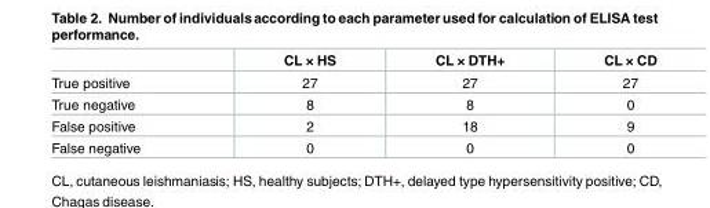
<table><thead><tr><td></td><td>CL × HS</td><td>CL × DTH+</td><td>CL × CD</td></tr></thead><tbody><tr><td>True positive</td><td>27</td><td>27</td><td>27</td></tr><tr><td>True negative</td><td>8</td><td>8</td><td>0</td></tr><tr><td>False positive</td><td>2</td><td>18</td><td>9</td></tr><tr><td>False negative</td><td>0</td><td>0</td><td>0</td></tr></tbody></table>